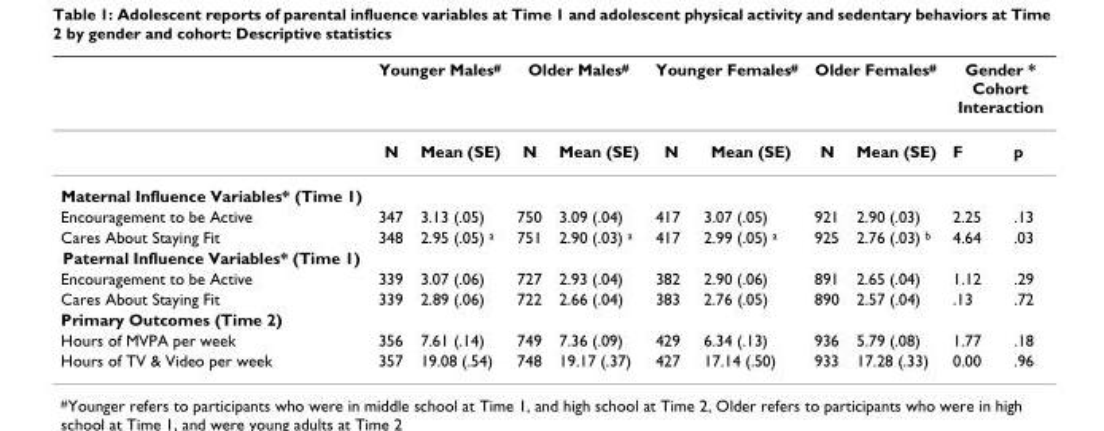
<table><thead><tr><td rowspan="2"></td><td colspan="2">Younger Males<sup>#</sup></td><td colspan="2">Older Males<sup>#</sup></td><td colspan="2">Younger Females<sup>#</sup></td><td colspan="2">Older Females<sup>#</sup></td><td colspan="2">Gender * Cohort Interaction</td></tr><tr><td>N</td><td>Mean (SE)</td><td>N</td><td>Mean (SE)</td><td>N</td><td>Mean (SE)</td><td>N</td><td>Mean (SE)</td><td>F</td><td>p</td></tr></thead><tbody><tr><td colspan="11">Maternal Influence Variables* (Time 1)</td></tr><tr><td>Encouragement to be Active</td><td>347</td><td>3.13 (.05)</td><td>750</td><td>3.09 (.04)</td><td>417</td><td>3.07 (.05)</td><td>921</td><td>2.90 (.03)</td><td>2.25</td><td>.13</td></tr><tr><td>Cares About Staying Fit</td><td>348</td><td>2.95 (.05) <sup>a</sup></td><td>751</td><td>2.90 (.03) <sup>a</sup></td><td>417</td><td>2.99 (.05) <sup>a</sup></td><td>925</td><td>2.76 (.03) <sup>b</sup></td><td>4.64</td><td>.03</td></tr><tr><td colspan="11">Paternal Influence Variables* (Time 1)</td></tr><tr><td>Encouragement to be Active</td><td>339</td><td>3.07 (.06)</td><td>727</td><td>2.93 (.04)</td><td>382</td><td>2.90 (.06)</td><td>891</td><td>2.65 (.04)</td><td>1.12</td><td>.29</td></tr><tr><td>Cares About Staying Fit</td><td>339</td><td>2.89 (.06)</td><td>722</td><td>2.66 (.04)</td><td>383</td><td>2.76 (.05)</td><td>890</td><td>2.57 (.04)</td><td>.13</td><td>.72</td></tr><tr><td colspan="11">Primary Outcomes (Time 2)</td></tr><tr><td>Hours of MVPA per week</td><td>356</td><td>7.61 (.14)</td><td>749</td><td>7.36 (.09)</td><td>429</td><td>6.34 (.13)</td><td>936</td><td>5.79 (.08)</td><td>1.77</td><td>.18</td></tr><tr><td>Hours of TV &amp; Video per week</td><td>357</td><td>19.08 (.54)</td><td>748</td><td>19.17 (.37)</td><td>427</td><td>17.14 (.50)</td><td>933</td><td>17.28 (.33)</td><td>0.00</td><td>.96</td></tr></tbody></table>